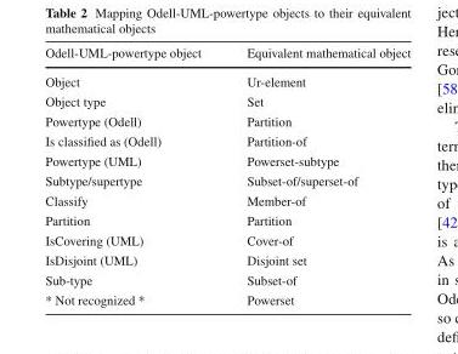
<table><thead><tr><td>Odell-UML-powertype object</td><td>Equivalent mathematical object</td></tr></thead><tbody><tr><td>Object</td><td>Ur-element</td></tr><tr><td>Object type</td><td>Set</td></tr><tr><td>Powertype (Odell)</td><td>Partition</td></tr><tr><td>Is classified as (Odell)</td><td>Partition-of</td></tr><tr><td>Powertype (UML)</td><td>Powerset-subtype</td></tr><tr><td>Subtype/supertype</td><td>Subset-of/superset-of</td></tr><tr><td>Classify</td><td>Member-of</td></tr><tr><td>Partition</td><td>Partition</td></tr><tr><td>IsCovering (UML)</td><td>Cover-of</td></tr><tr><td>IsDisjoint (UML)</td><td>Disjoint set</td></tr><tr><td>Sub-type</td><td>Subset-of</td></tr><tr><td>* Not recognized *</td><td>Powerset</td></tr></tbody></table>